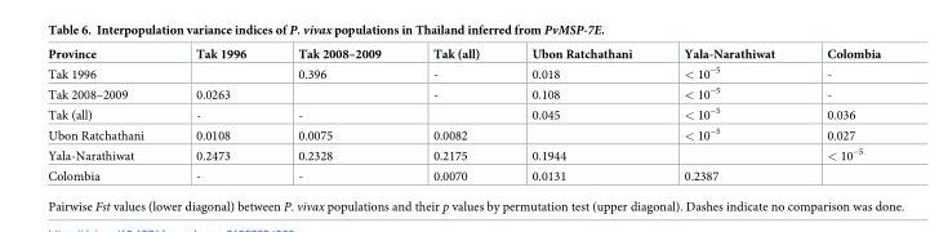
<table><tbody><tr><td>Province</td><td>Tak 1996</td><td>Tak 2008–2009</td><td>Tak (all)</td><td>Ubon Ratchathani</td><td>Yala-Narathiwat</td><td>Colombia</td></tr><tr><td>Tak 1996</td><td></td><td>0.396</td><td>-</td><td>0.018</td><td>&lt; 10<sup>−5</sup></td><td>-</td></tr><tr><td>Tak 2008–2009</td><td>0.0263</td><td></td><td>-</td><td>0.108</td><td>&lt; 10<sup>−5</sup></td><td>-</td></tr><tr><td>Tak (all)</td><td>-</td><td>-</td><td></td><td>0.045</td><td>&lt; 10<sup>−5</sup></td><td>0.036</td></tr><tr><td>Ubon Ratchathani</td><td>0.0108</td><td>0.0075</td><td>0.0082</td><td></td><td>&lt; 10<sup>−5</sup></td><td>0.027</td></tr><tr><td>Yala-Narathiwat</td><td>0.2473</td><td>0.2328</td><td>0.2175</td><td>0.1944</td><td></td><td>&lt; 10<sup>−5</sup></td></tr><tr><td>Colombia</td><td>-</td><td>-</td><td>0.0070</td><td>0.0131</td><td>0.2387</td><td></td></tr></tbody></table>